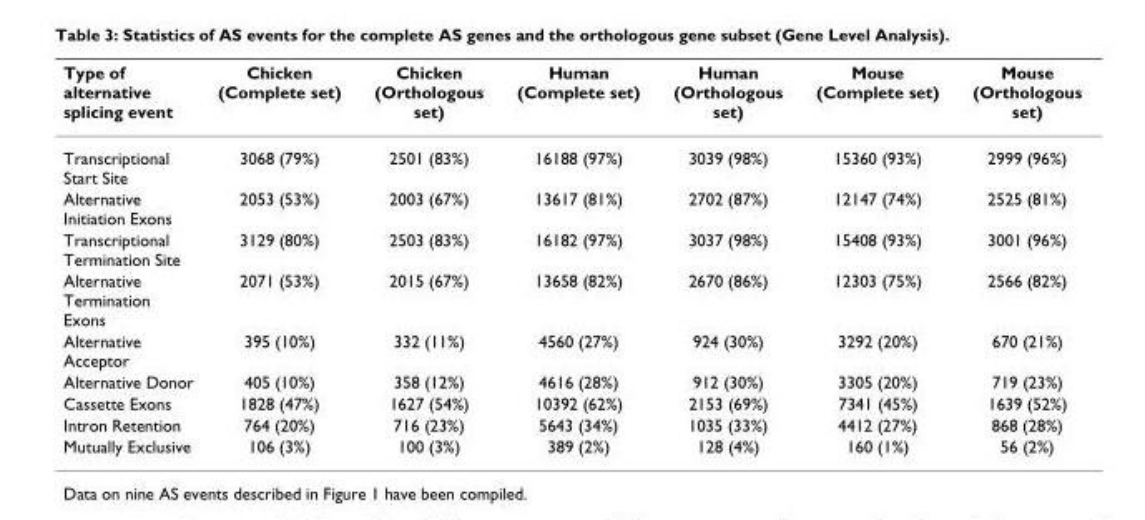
<table><thead><tr><td>Type of alternative splicing event</td><td>Chicken (Complete set)</td><td>Chicken (Orthologous set)</td><td>Human (Complete set)</td><td>Human (Orthologous set)</td><td>Mouse (Complete set)</td><td>Mouse (Orthologous set)</td></tr></thead><tbody><tr><td>Transcriptional Start Site</td><td>3068 (79%)</td><td>2501 (83%)</td><td>16188 (97%)</td><td>3039 (98%)</td><td>15360 (93%)</td><td>2999 (96%)</td></tr><tr><td>Alternative Initiation Exons</td><td>2053 (53%)</td><td>2003 (67%)</td><td>13617 (81%)</td><td>2702 (87%)</td><td>12147 (74%)</td><td>2525 (81%)</td></tr><tr><td>Transcriptional Termination Site</td><td>3129 (80%)</td><td>2503 (83%)</td><td>16182 (97%)</td><td>3037 (98%)</td><td>15408 (93%)</td><td>3001 (96%)</td></tr><tr><td>Alternative Termination Exons</td><td>2071 (53%)</td><td>2015 (67%)</td><td>13658 (82%)</td><td>2670 (86%)</td><td>12303 (75%)</td><td>2566 (82%)</td></tr><tr><td>Alternative Acceptor</td><td>395 (10%)</td><td>332 (11%)</td><td>4560 (27%)</td><td>924 (30%)</td><td>3292 (20%)</td><td>670 (21%)</td></tr><tr><td>Alternative Donor</td><td>405 (10%)</td><td>358 (12%)</td><td>4616 (28%)</td><td>912 (30%)</td><td>3305 (20%)</td><td>719 (23%)</td></tr><tr><td>Cassette Exons</td><td>1828 (47%)</td><td>1627 (54%)</td><td>10392 (62%)</td><td>2153 (69%)</td><td>7341 (45%)</td><td>1639 (52%)</td></tr><tr><td>Intron Retention</td><td>764 (20%)</td><td>716 (23%)</td><td>5643 (34%)</td><td>1035 (33%)</td><td>4412 (27%)</td><td>868 (28%)</td></tr><tr><td>Mutually Exclusive</td><td>106 (3%)</td><td>100 (3%)</td><td>389 (2%)</td><td>128 (4%)</td><td>160 (1%)</td><td>56 (2%)</td></tr></tbody></table>